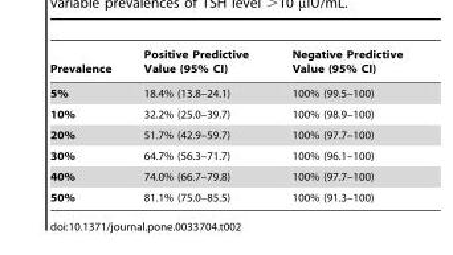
<table><thead><tr><td>Prevalence</td><td>Positive Predictive Value (95% CI)</td><td>Negative Predictive Value (95% CI)</td></tr></thead><tbody><tr><td>5%</td><td>18.4% (13.8–24.1)</td><td>100% (99.5–100)</td></tr><tr><td>10%</td><td>32.2% (25.0–39.7)</td><td>100% (98.9–100)</td></tr><tr><td>20%</td><td>51.7% (42.9–59.7)</td><td>100% (97.7–100)</td></tr><tr><td>30%</td><td>64.7% (56.3–71.7)</td><td>100% (96.1–100)</td></tr><tr><td>40%</td><td>74.0% (66.7–79.8)</td><td>100% (97.7–100)</td></tr><tr><td>50%</td><td>81.1% (75.0–85.5)</td><td>100% (91.3–100)</td></tr></tbody></table>